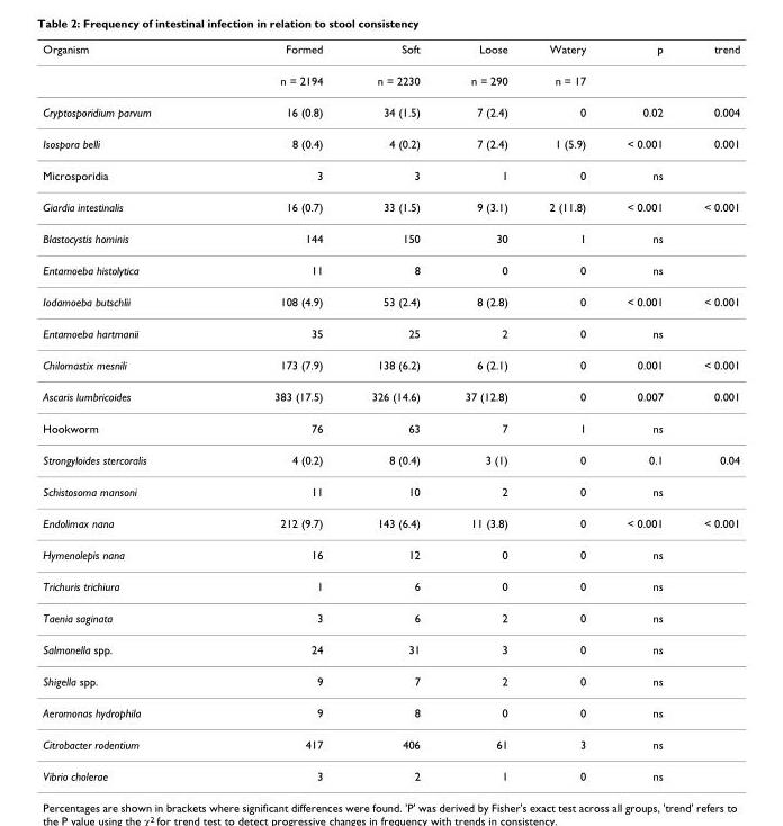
<table><thead><tr><td>Organism</td><td>Formed</td><td>Soft</td><td>Loose</td><td>Watery</td><td>p</td><td>trend</td></tr></thead><tbody><tr><td></td><td>n = 2194</td><td>n = 2230</td><td>n = 290</td><td>n = 17</td><td></td><td></td></tr><tr><td>Cryptosporidium parvum</td><td>16 (0.8)</td><td>34 (1.5)</td><td>7 (2.4)</td><td>0</td><td>0.02</td><td>0.004</td></tr><tr><td>Isospora belli</td><td>8 (0.4)</td><td>4 (0.2)</td><td>7 (2.4)</td><td>1 (5.9)</td><td>&lt; 0.001</td><td>0.001</td></tr><tr><td>Microsporidia</td><td>3</td><td>3</td><td>1</td><td>0</td><td>ns</td><td></td></tr><tr><td>Giardia intestinalis</td><td>16 (0.7)</td><td>33 (1.5)</td><td>9 (3.1)</td><td>2 (11.8)</td><td>&lt; 0.001</td><td>&lt; 0.001</td></tr><tr><td>Blastocystis hominis</td><td>144</td><td>150</td><td>30</td><td>1</td><td>ns</td><td></td></tr><tr><td>Entamoeba histolytica</td><td>11</td><td>8</td><td>0</td><td>0</td><td>ns</td><td></td></tr><tr><td>Iodamoeba butschlii</td><td>108 (4.9)</td><td>53 (2.4)</td><td>8 (2.8)</td><td>0</td><td>&lt; 0.001</td><td>&lt; 0.001</td></tr><tr><td>Entamoeba hartmanii</td><td>35</td><td>25</td><td>2</td><td>0</td><td>ns</td><td></td></tr><tr><td>Chilomastix mesnili</td><td>173 (7.9)</td><td>138 (6.2)</td><td>6 (2.1)</td><td>0</td><td>0.001</td><td>&lt; 0.001</td></tr><tr><td>Ascaris lumbricoides</td><td>383 (17.5)</td><td>326 (14.6)</td><td>37 (12.8)</td><td>0</td><td>0.007</td><td>0.001</td></tr><tr><td>Hookworm</td><td>76</td><td>63</td><td>7</td><td>1</td><td>ns</td><td></td></tr><tr><td>Strongyloides stercoralis</td><td>4 (0.2)</td><td>8 (0.4)</td><td>3 (1)</td><td>0</td><td>0.1</td><td>0.04</td></tr><tr><td>Schistosoma mansoni</td><td>11</td><td>10</td><td>2</td><td>0</td><td>ns</td><td></td></tr><tr><td>Endolimax nana</td><td>212 (9.7)</td><td>143 (6.4)</td><td>11 (3.8)</td><td>0</td><td>&lt; 0.001</td><td>&lt; 0.001</td></tr><tr><td>Hymenolepis nana</td><td>16</td><td>12</td><td>0</td><td>0</td><td>ns</td><td></td></tr><tr><td>Trichuris trichiura</td><td>1</td><td>6</td><td>0</td><td>0</td><td>ns</td><td></td></tr><tr><td>Taenia saginata</td><td>3</td><td>6</td><td>2</td><td>0</td><td>ns</td><td></td></tr><tr><td>Salmonella spp.</td><td>24</td><td>31</td><td>3</td><td>0</td><td>ns</td><td></td></tr><tr><td>Shigella spp.</td><td>9</td><td>7</td><td>2</td><td>0</td><td>ns</td><td></td></tr><tr><td>Aeromonas hydrophila</td><td>9</td><td>8</td><td>0</td><td>0</td><td>ns</td><td></td></tr><tr><td>Citrobacter rodentium</td><td>417</td><td>406</td><td>61</td><td>3</td><td>ns</td><td></td></tr><tr><td>Vibrio cholerae</td><td>3</td><td>2</td><td>1</td><td>0</td><td>ns</td><td></td></tr></tbody></table>